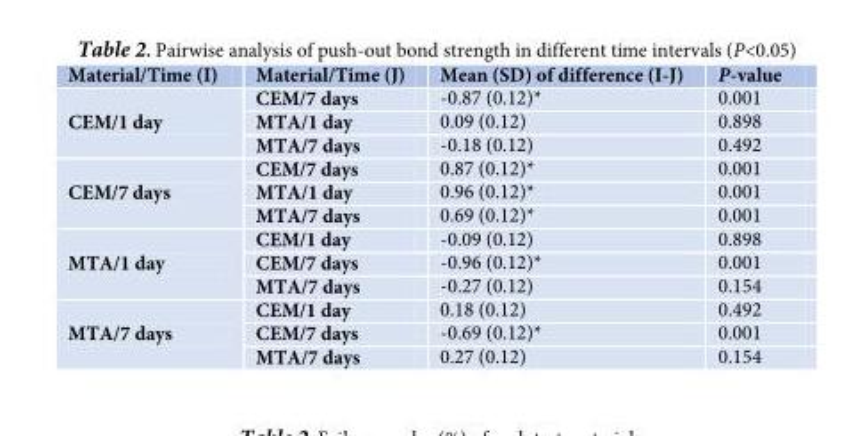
<table><thead><tr><td>Material/Time (I)</td><td>Material/Time (J)</td><td>Mean (SD) of difference (I-J)</td><td>P-value</td></tr></thead><tbody><tr><td rowspan="3">CEM/1 day</td><td>CEM/7 days</td><td>-0.87 (0.12)*</td><td>0.001</td></tr><tr><td>MTA/1 day</td><td>0.09 (0.12)</td><td>0.898</td></tr><tr><td>MTA/7 days</td><td>-0.18 (0.12)</td><td>0.492</td></tr><tr><td rowspan="3">CEM/7 days</td><td>CEM/7 days</td><td>0.87 (0.12)*</td><td>0.001</td></tr><tr><td>MTA/1 day</td><td>0.96 (0.12)*</td><td>0.001</td></tr><tr><td>MTA/7 days</td><td>0.69 (0.12)*</td><td>0.001</td></tr><tr><td rowspan="3">MTA/1 day</td><td>CEM/1 day</td><td>-0.09 (0.12)</td><td>0.898</td></tr><tr><td>CEM/7 days</td><td>-0.96 (0.12)*</td><td>0.001</td></tr><tr><td>MTA/7 days</td><td>-0.27 (0.12)</td><td>0.154</td></tr><tr><td rowspan="3">MTA/7 days</td><td>CEM/1 day</td><td>0.18 (0.12)</td><td>0.492</td></tr><tr><td>CEM/7 days</td><td>-0.69 (0.12)*</td><td>0.001</td></tr><tr><td>MTA/7 days</td><td>0.27 (0.12)</td><td>0.154</td></tr></tbody></table>